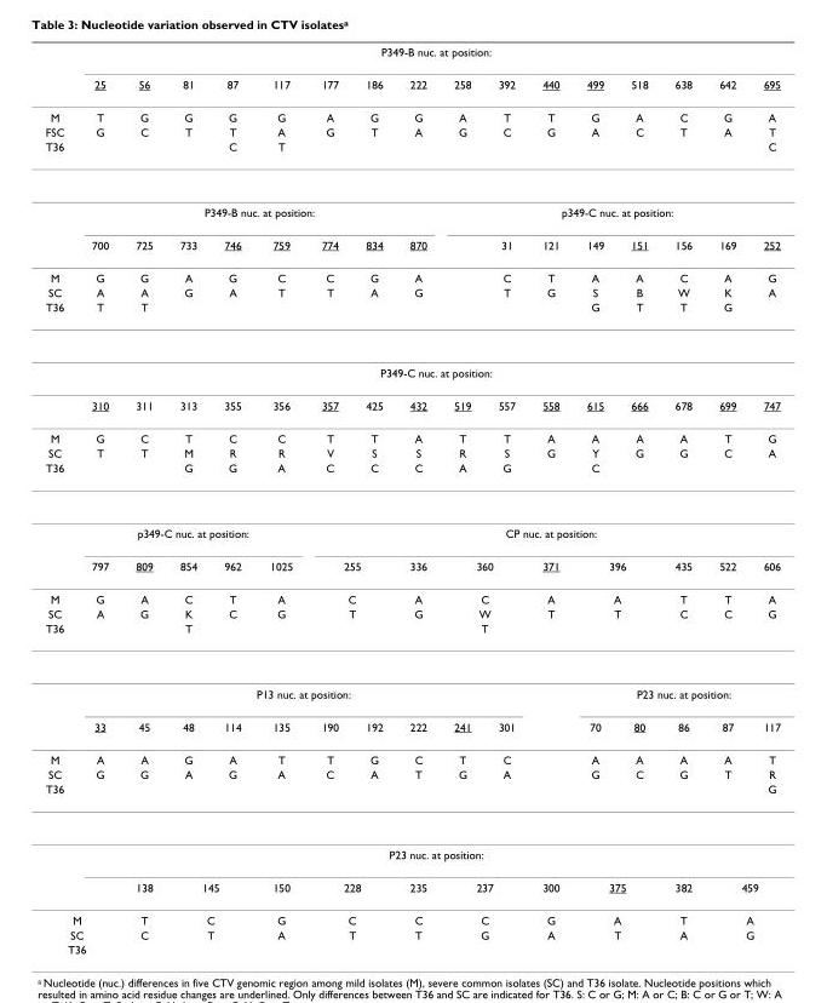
<table><thead><tr><td rowspan="2"></td><td colspan="16">P349-B nuc. at position:</td></tr><tr><td>25</td><td>56</td><td>81</td><td>87</td><td>117</td><td>177</td><td>186</td><td>222</td><td>258</td><td>392</td><td>440</td><td>499</td><td>518</td><td>638</td><td>642</td><td>695</td></tr></thead><tbody><tr><td>M</td><td>T</td><td>G</td><td>G</td><td>G</td><td>G</td><td>A</td><td>G</td><td>G</td><td>A</td><td>T</td><td>T</td><td>G</td><td>A</td><td>C</td><td>G</td><td>A</td></tr><tr><td>FSC</td><td>G</td><td>C</td><td>T</td><td>T</td><td>A</td><td>G</td><td>T</td><td>A</td><td>G</td><td>C</td><td>G</td><td>A</td><td>C</td><td>T</td><td>A</td><td>T</td></tr><tr><td rowspan="3">T36</td><td></td><td></td><td></td><td>C</td><td>T</td><td></td><td></td><td></td><td></td><td></td><td></td><td></td><td></td><td></td><td></td><td>C</td></tr><tr><td colspan="8">P349-B nuc. at position:</td><td colspan="8">p349-C nuc. at position:</td></tr><tr><td>700</td><td>725</td><td>733</td><td>746</td><td>759</td><td>774</td><td>834</td><td>870</td><td></td><td>31</td><td>121</td><td>149</td><td>151</td><td>156</td><td>169</td><td>252</td></tr><tr><td>M</td><td>G</td><td>G</td><td>A</td><td>G</td><td>C</td><td>C</td><td>G</td><td>A</td><td></td><td>C</td><td>T</td><td>A</td><td>A</td><td>C</td><td>A</td><td>G</td></tr><tr><td>SC</td><td>A</td><td>A</td><td>G</td><td>A</td><td>T</td><td>T</td><td>A</td><td>G</td><td></td><td>T</td><td>G</td><td>S</td><td>B</td><td>W</td><td>K</td><td>A</td></tr><tr><td rowspan="3">T36</td><td>T</td><td>T</td><td></td><td></td><td></td><td></td><td></td><td></td><td></td><td></td><td></td><td>G</td><td>T</td><td>T</td><td>G</td><td></td></tr><tr><td colspan="16">P349-C nuc. at position:</td></tr><tr><td>310</td><td>311</td><td>313</td><td>355</td><td>356</td><td>357</td><td>425</td><td>432</td><td>519</td><td>557</td><td>558</td><td>615</td><td>666</td><td>678</td><td>699</td><td>747</td></tr><tr><td>M</td><td>G</td><td>C</td><td>T</td><td>C</td><td>C</td><td>T</td><td>T</td><td>A</td><td>T</td><td>T</td><td>A</td><td>A</td><td>A</td><td>A</td><td>T</td><td>G</td></tr><tr><td>SC</td><td>T</td><td>T</td><td>M</td><td>R</td><td>R</td><td>V</td><td>S</td><td>S</td><td>R</td><td>S</td><td>G</td><td>Y</td><td>G</td><td>G</td><td>C</td><td>A</td></tr><tr><td rowspan="3">T36</td><td></td><td></td><td>G</td><td>G</td><td>A</td><td>C</td><td>C</td><td>C</td><td>A</td><td>G</td><td></td><td>C</td><td></td><td></td><td></td><td></td></tr><tr><td colspan="5">p349-C nuc. at position:</td><td colspan="11">CP nuc. at position:</td></tr><tr><td>797</td><td>809</td><td>854</td><td>962</td><td>1025</td><td colspan="2">255</td><td>336</td><td colspan="2">360</td><td>371</td><td colspan="2">396</td><td>435</td><td>522</td><td>606</td></tr><tr><td>M</td><td>G</td><td>A</td><td>C</td><td>T</td><td>A</td><td colspan="2">C</td><td>A</td><td colspan="2">C</td><td>A</td><td colspan="2">A</td><td>T</td><td>T</td><td>A</td></tr><tr><td>SC</td><td>A</td><td>G</td><td>K</td><td>C</td><td>G</td><td colspan="2">T</td><td>G</td><td colspan="2">W</td><td>T</td><td colspan="2">T</td><td>C</td><td>C</td><td>G</td></tr><tr><td rowspan="3">T36</td><td></td><td></td><td>T</td><td></td><td></td><td></td><td></td><td></td><td colspan="2">T</td><td></td><td></td><td></td><td></td><td></td><td></td></tr><tr><td colspan="10">P13 nuc. at position:</td><td></td><td colspan="5">P23 nuc. at position:</td></tr><tr><td>33</td><td>45</td><td>48</td><td>114</td><td>135</td><td>190</td><td>192</td><td>222</td><td>241</td><td>301</td><td></td><td>70</td><td>80</td><td>86</td><td>87</td><td>117</td></tr><tr><td>M</td><td>A</td><td>A</td><td>G</td><td>A</td><td>T</td><td>T</td><td>G</td><td>C</td><td>T</td><td>C</td><td></td><td>A</td><td>A</td><td>A</td><td>A</td><td>T</td></tr><tr><td>SC</td><td>G</td><td>G</td><td>A</td><td>G</td><td>A</td><td>C</td><td>A</td><td>T</td><td>G</td><td>A</td><td></td><td>G</td><td>C</td><td>G</td><td>T</td><td>R</td></tr><tr><td rowspan="3">T36</td><td></td><td></td><td></td><td></td><td></td><td></td><td></td><td></td><td></td><td></td><td></td><td></td><td></td><td></td><td></td><td>G</td></tr><tr><td colspan="16">P23 nuc. at position:</td></tr><tr><td></td><td>138</td><td colspan="2">145</td><td>150</td><td colspan="2">228</td><td>235</td><td colspan="2">237</td><td>300</td><td colspan="2">375</td><td>382</td><td colspan="2">459</td></tr><tr><td colspan="2">M</td><td>T</td><td colspan="2">C</td><td>G</td><td colspan="2">C</td><td>C</td><td colspan="2">C</td><td>G</td><td colspan="2">A</td><td>T</td><td colspan="2">A</td></tr><tr><td colspan="2">SC</td><td>C</td><td colspan="2">T</td><td>A</td><td colspan="2">T</td><td>T</td><td colspan="2">G</td><td>A</td><td colspan="2">T</td><td>A</td><td colspan="2">G</td></tr><tr><td colspan="2">T36</td><td></td><td></td><td></td><td></td><td></td><td></td><td></td><td></td><td></td><td></td><td></td><td></td><td></td><td></td><td></td></tr></tbody></table>